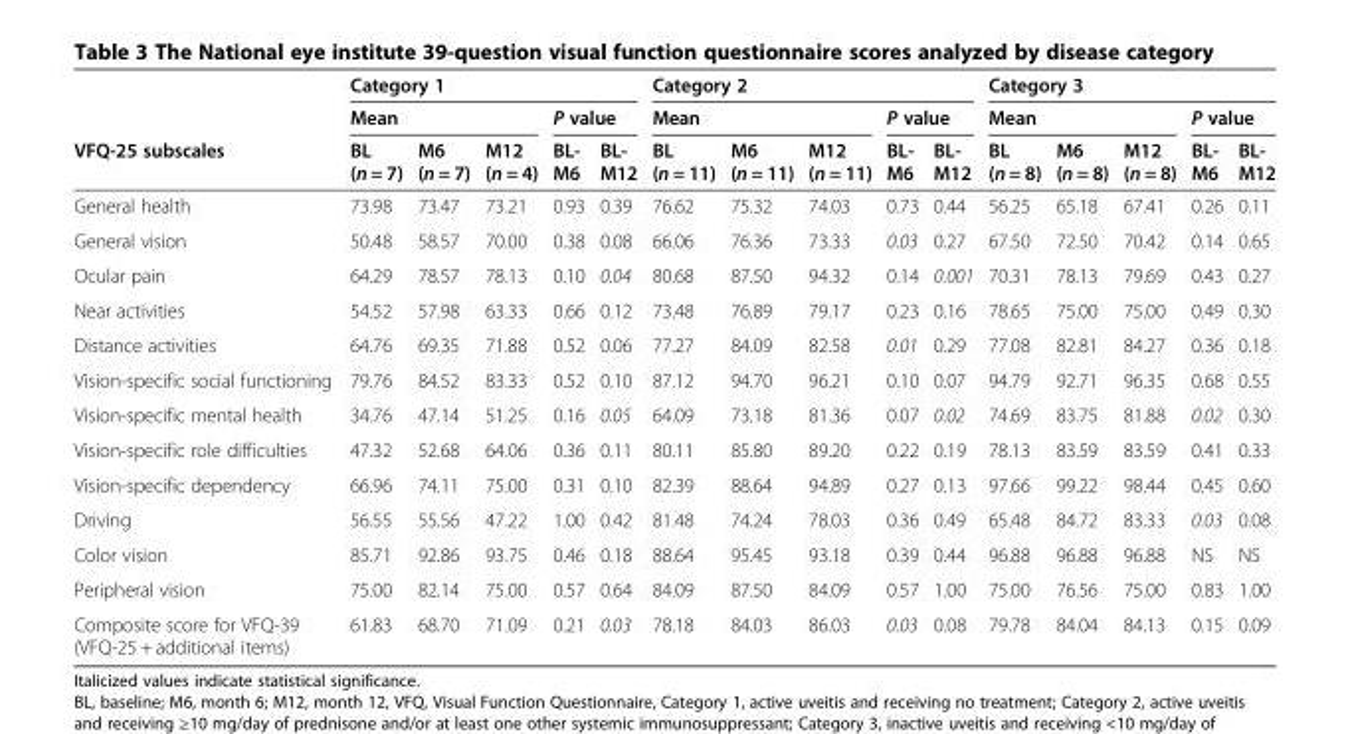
<table><thead><tr><td rowspan="3">VFQ-25 subscales</td><td colspan="5">Category 1</td><td colspan="5">Category 2</td><td colspan="5">Category 3</td></tr><tr><td colspan="3">Mean</td><td colspan="2">P value</td><td colspan="3">Mean</td><td colspan="2">P value</td><td colspan="3">Mean</td><td colspan="2">P value</td></tr><tr><td>BL (n = 7)</td><td>M6 (n = 7)</td><td>M12 (n = 4)</td><td>BL- M6</td><td>BL- M12</td><td>BL (n = 11)</td><td>M6 (n = 11)</td><td>M12 (n = 11)</td><td>BL- M6</td><td>BL- M12</td><td>BL (n = 8)</td><td>M6 (n = 8)</td><td>M12 (n = 8)</td><td>BL- M6</td><td>BL- M12</td></tr></thead><tbody><tr><td>General health</td><td>73.98</td><td>73.47</td><td>73.21</td><td>0.93</td><td>0.39</td><td>76.62</td><td>75.32</td><td>74.03</td><td>0.73</td><td>0.44</td><td>56.25</td><td>65.18</td><td>67.41</td><td>0.26</td><td>0.11</td></tr><tr><td>General vision</td><td>50.48</td><td>58.57</td><td>70.00</td><td>0.38</td><td>0.08</td><td>66.06</td><td>76.36</td><td>73.33</td><td>0.03</td><td>0.27</td><td>67.50</td><td>72.50</td><td>70.42</td><td>0.14</td><td>0.65</td></tr><tr><td>Ocular pain</td><td>64.29</td><td>78.57</td><td>78.13</td><td>0.10</td><td>0.04</td><td>80.68</td><td>87.50</td><td>94.32</td><td>0.14</td><td>0.001</td><td>70.31</td><td>78.13</td><td>79.69</td><td>0.43</td><td>0.27</td></tr><tr><td>Near activities</td><td>54.52</td><td>57.98</td><td>63.33</td><td>0.66</td><td>0.12</td><td>73.48</td><td>76.89</td><td>79.17</td><td>0.23</td><td>0.16</td><td>78.65</td><td>75.00</td><td>75.00</td><td>0.49</td><td>0.30</td></tr><tr><td>Distance activities</td><td>64.76</td><td>69.35</td><td>71.88</td><td>0.52</td><td>0.06</td><td>77.27</td><td>84.09</td><td>82.58</td><td>0.01</td><td>0.29</td><td>77.08</td><td>82.81</td><td>84.27</td><td>0.36</td><td>0.18</td></tr><tr><td>Vision-specific social functioning</td><td>79.76</td><td>84.52</td><td>83.33</td><td>0.52</td><td>0.10</td><td>87.12</td><td>94.70</td><td>96.21</td><td>0.10</td><td>0.07</td><td>94.79</td><td>92.71</td><td>96.35</td><td>0.68</td><td>0.55</td></tr><tr><td>Vision-specific mental health</td><td>34.76</td><td>47.14</td><td>51.25</td><td>0.16</td><td>0.05</td><td>64.09</td><td>73.18</td><td>81.36</td><td>0.07</td><td>0.02</td><td>74.69</td><td>83.75</td><td>81.88</td><td>0.02</td><td>0.30</td></tr><tr><td>Vision-specific role difficulties</td><td>47.32</td><td>52.68</td><td>64.06</td><td>0.36</td><td>0.11</td><td>80.11</td><td>85.80</td><td>89.20</td><td>0.22</td><td>0.19</td><td>78.13</td><td>83.59</td><td>83.59</td><td>0.41</td><td>0.33</td></tr><tr><td>Vision-specific dependency</td><td>66.96</td><td>74.11</td><td>75.00</td><td>0.31</td><td>0.10</td><td>82.39</td><td>88.64</td><td>94.89</td><td>0.27</td><td>0.13</td><td>97.66</td><td>99.22</td><td>98.44</td><td>0.45</td><td>0.60</td></tr><tr><td>Driving</td><td>56.55</td><td>55.56</td><td>47.22</td><td>1.00</td><td>0.42</td><td>81.48</td><td>74.24</td><td>78.03</td><td>0.36</td><td>0.49</td><td>65.48</td><td>84.72</td><td>83.33</td><td>0.03</td><td>0.08</td></tr><tr><td>Color vision</td><td>85.71</td><td>92.86</td><td>93.75</td><td>0.46</td><td>0.18</td><td>88.64</td><td>95.45</td><td>93.18</td><td>0.39</td><td>0.44</td><td>96.88</td><td>96.88</td><td>96.88</td><td>NS</td><td>NS</td></tr><tr><td>Peripheral vision</td><td>75.00</td><td>82.14</td><td>75.00</td><td>0.57</td><td>0.64</td><td>84.09</td><td>87.50</td><td>84.09</td><td>0.57</td><td>1.00</td><td>75.00</td><td>76.56</td><td>75.00</td><td>0.83</td><td>1.00</td></tr><tr><td>Composite score for VFQ-39 (VFQ-25 + additional items)</td><td>61.83</td><td>68.70</td><td>71.09</td><td>0.21</td><td>0.03</td><td>78.18</td><td>84.03</td><td>86.03</td><td>0.03</td><td>0.08</td><td>79.78</td><td>84.04</td><td>84.13</td><td>0.15</td><td>0.09</td></tr></tbody></table>